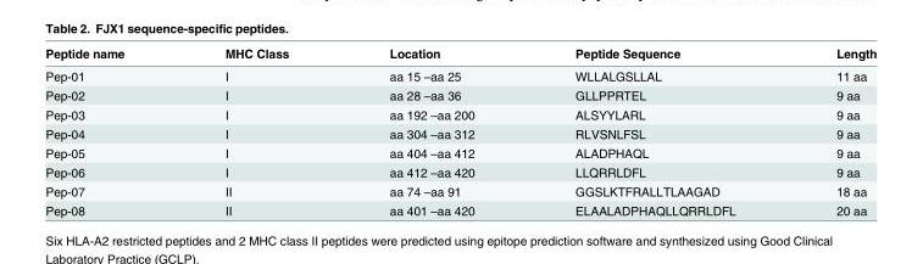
<table><thead><tr><td>Peptide name</td><td>MHC Class</td><td>Location</td><td>Peptide Sequence</td><td>Length</td></tr></thead><tbody><tr><td>Pep-01</td><td>I</td><td>aa 15 –aa 25</td><td>WLLALGSLLAL</td><td>11 aa</td></tr><tr><td>Pep-02</td><td>I</td><td>aa 28 –aa 36</td><td>GLLPPRTEL</td><td>9 aa</td></tr><tr><td>Pep-03</td><td>I</td><td>aa 192 –aa 200</td><td>ALSYYLARL</td><td>9 aa</td></tr><tr><td>Pep-04</td><td>I</td><td>aa 304 –aa 312</td><td>RLVSNLFSL</td><td>9 aa</td></tr><tr><td>Pep-05</td><td>I</td><td>aa 404 –aa 412</td><td>ALADPHAQL</td><td>9 aa</td></tr><tr><td>Pep-06</td><td>I</td><td>aa 412 –aa 420</td><td>LLQRRLDFL</td><td>9 aa</td></tr><tr><td>Pep-07</td><td>II</td><td>aa 74 –aa 91</td><td>GGSLKTFRALLTLAAGAD</td><td>18 aa</td></tr><tr><td>Pep-08</td><td>II</td><td>aa 401 –aa 420</td><td>ELAALADPHAQLLQRRLDFL</td><td>20 aa</td></tr></tbody></table>